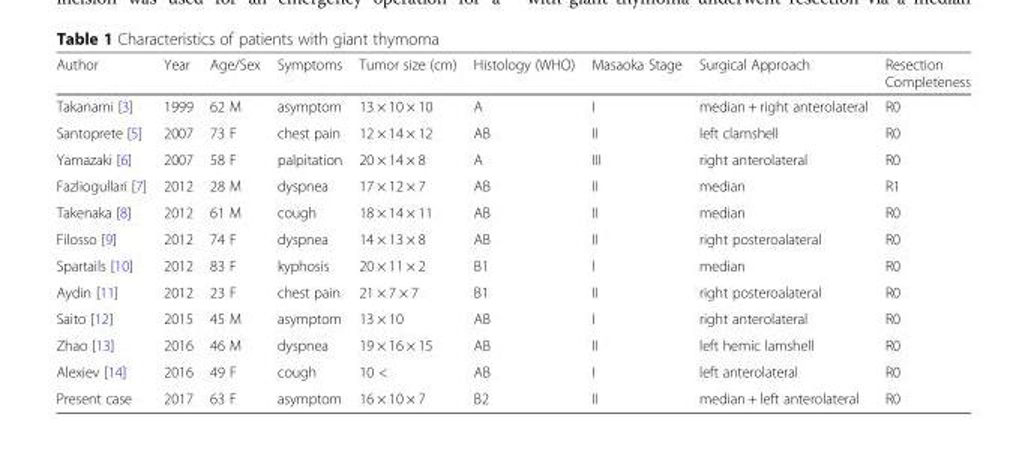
<table><thead><tr><td>Author</td><td>Year</td><td>Age/Sex</td><td>Symptoms</td><td>Tumor size (cm)</td><td>Histology (WHO)</td><td>Masaoka Stage</td><td>Surgical Approach</td><td>Resection Completeness</td></tr></thead><tbody><tr><td>Takanami [3]</td><td>1999</td><td>62 M</td><td>asymptom</td><td>13 × 10 × 10</td><td>A</td><td>I</td><td>median + right anterolateral</td><td>R0</td></tr><tr><td>Santoprete [5]</td><td>2007</td><td>73 F</td><td>chest pain</td><td>12 × 14 × 12</td><td>AB</td><td>II</td><td>left clamshell</td><td>R0</td></tr><tr><td>Yamazaki [6]</td><td>2007</td><td>58 F</td><td>palpitation</td><td>20 × 14 × 8</td><td>A</td><td>III</td><td>right anterolateral</td><td>R0</td></tr><tr><td>Fazliogullari [7]</td><td>2012</td><td>28 M</td><td>dyspnea</td><td>17 × 12 × 7</td><td>AB</td><td>II</td><td>median</td><td>R1</td></tr><tr><td>Takenaka [8]</td><td>2012</td><td>61 M</td><td>cough</td><td>18 × 14 × 11</td><td>AB</td><td>II</td><td>median</td><td>R0</td></tr><tr><td>Filosso [9]</td><td>2012</td><td>74 F</td><td>dyspnea</td><td>14 × 13 × 8</td><td>AB</td><td>II</td><td>right posteroalateral</td><td>R0</td></tr><tr><td>Spartails [10]</td><td>2012</td><td>83 F</td><td>kyphosis</td><td>20 × 11 × 2</td><td>B1</td><td>I</td><td>median</td><td>R0</td></tr><tr><td>Aydin [11]</td><td>2012</td><td>23 F</td><td>chest pain</td><td>21 × 7 × 7</td><td>B1</td><td>II</td><td>right posteroalateral</td><td>R0</td></tr><tr><td>Saito [12]</td><td>2015</td><td>45 M</td><td>asymptom</td><td>13 × 10</td><td>AB</td><td>I</td><td>right anterolateral</td><td>R0</td></tr><tr><td>Zhao [13]</td><td>2016</td><td>46 M</td><td>dyspnea</td><td>19 × 16 × 15</td><td>AB</td><td>II</td><td>left hemic lamshell</td><td>R0</td></tr><tr><td>Alexiev [14]</td><td>2016</td><td>49 F</td><td>cough</td><td>10 &lt;</td><td>AB</td><td>I</td><td>left anterolateral</td><td>R0</td></tr><tr><td>Present case</td><td>2017</td><td>63 F</td><td>asymptom</td><td>16 × 10 × 7</td><td>B2</td><td>II</td><td>median + left anterolateral</td><td>R0</td></tr></tbody></table>